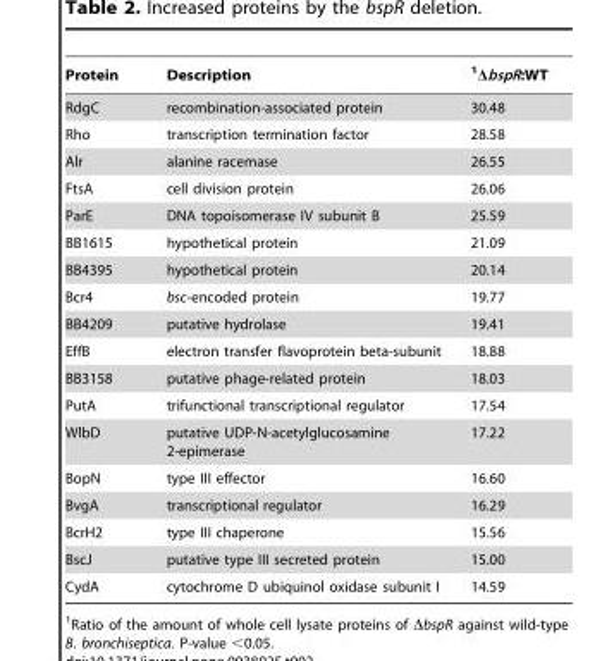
<table><thead><tr><td>Protein</td><td>Description</td><td>1ΔbspR:WT</td></tr></thead><tbody><tr><td>RdgC</td><td>recombination-associated protein</td><td>30.48</td></tr><tr><td>Rho</td><td>transcription termination factor</td><td>28.58</td></tr><tr><td>Alr</td><td>alanine racemase</td><td>26.55</td></tr><tr><td>FtsA</td><td>cell division protein</td><td>26.06</td></tr><tr><td>ParE</td><td>DNA topoisomerase IV subunit B</td><td>25.59</td></tr><tr><td>BB1615</td><td>hypothetical protein</td><td>21.09</td></tr><tr><td>BB4395</td><td>hypothetical protein</td><td>20.14</td></tr><tr><td>Bcr4</td><td>bsc-encoded protein</td><td>19.77</td></tr><tr><td>BB4209</td><td>putative hydrolase</td><td>19.41</td></tr><tr><td>EffB</td><td>electron transfer flavoprotein beta-subunit</td><td>18.88</td></tr><tr><td>BB3158</td><td>putative phage-related protein</td><td>18.03</td></tr><tr><td>PutA</td><td>trifunctional transcriptional regulator</td><td>17.54</td></tr><tr><td>WlbD</td><td>putative UDP-N-acetylglucosamine 2-epimerase</td><td>17.22</td></tr><tr><td>BopN</td><td>type III effector</td><td>16.60</td></tr><tr><td>BvgA</td><td>transcriptional regulator</td><td>16.29</td></tr><tr><td>BcrH2</td><td>type III chaperone</td><td>15.56</td></tr><tr><td>BscJ</td><td>putative type III secreted protein</td><td>15.00</td></tr><tr><td>CydA</td><td>cytochrome D ubiquinol oxidase subunit I</td><td>14.59</td></tr></tbody></table>